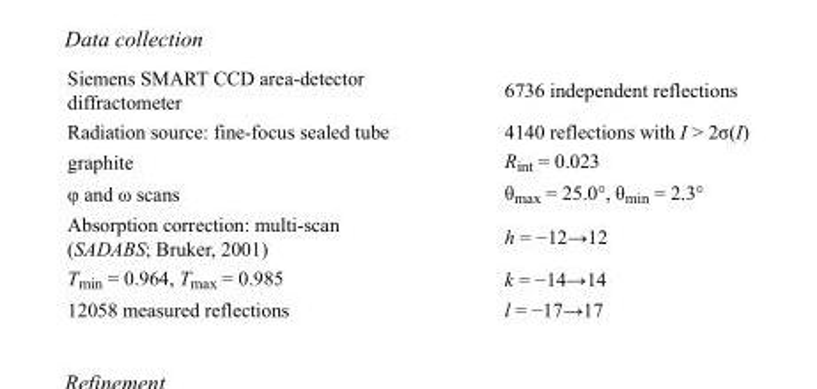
<table><tbody><tr><td>Siemens SMART CCD area-detector diffractometer</td><td>6736 independent reflections</td></tr><tr><td>Radiation source: fine-focus sealed tube</td><td>4140 reflections with I &gt; 2σ(I)</td></tr><tr><td>graphite</td><td>R<sub>int</sub> = 0.023</td></tr><tr><td>φ and ω scans</td><td>θ<sub>max</sub> = 25.0°, θ<sub>min</sub> = 2.3°</td></tr><tr><td>Absorption correction: multi-scan (SADABS; Bruker, 2001)</td><td>h = −12→12</td></tr><tr><td>T<sub>min</sub> = 0.964, T<sub>max</sub> = 0.985</td><td>k = −14→14</td></tr><tr><td>12058 measured reflections</td><td>l = −17→17</td></tr></tbody></table>